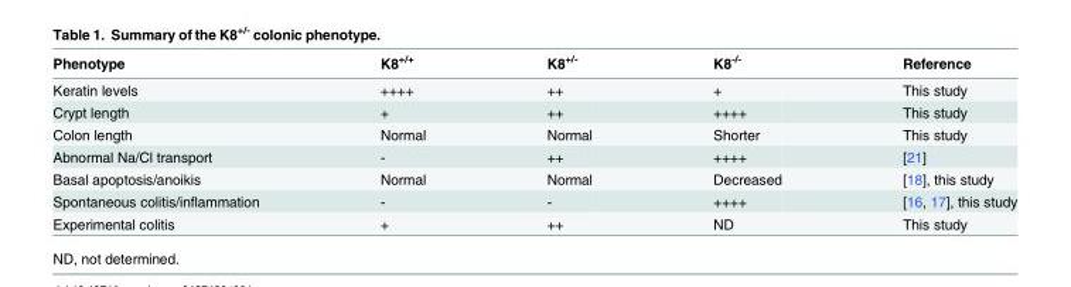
<table><thead><tr><td>Phenotype</td><td>K8<sup>+/+</sup></td><td>K8<sup>+/-</sup></td><td>K8<sup>-/-</sup></td><td>Reference</td></tr></thead><tbody><tr><td>Keratin levels</td><td>++++</td><td>++</td><td>+</td><td>This study</td></tr><tr><td>Crypt length</td><td>+</td><td>++</td><td>++++</td><td>This study</td></tr><tr><td>Colon length</td><td>Normal</td><td>Normal</td><td>Shorter</td><td>This study</td></tr><tr><td>Abnormal Na/Cl transport</td><td>-</td><td>++</td><td>++++</td><td>[21]</td></tr><tr><td>Basal apoptosis/anoikis</td><td>Normal</td><td>Normal</td><td>Decreased</td><td>[18], this study</td></tr><tr><td>Spontaneous colitis/inflammation</td><td>-</td><td>-</td><td>++++</td><td>[16, 17], this study</td></tr><tr><td>Experimental colitis</td><td>+</td><td>++</td><td>ND</td><td>This study</td></tr></tbody></table>